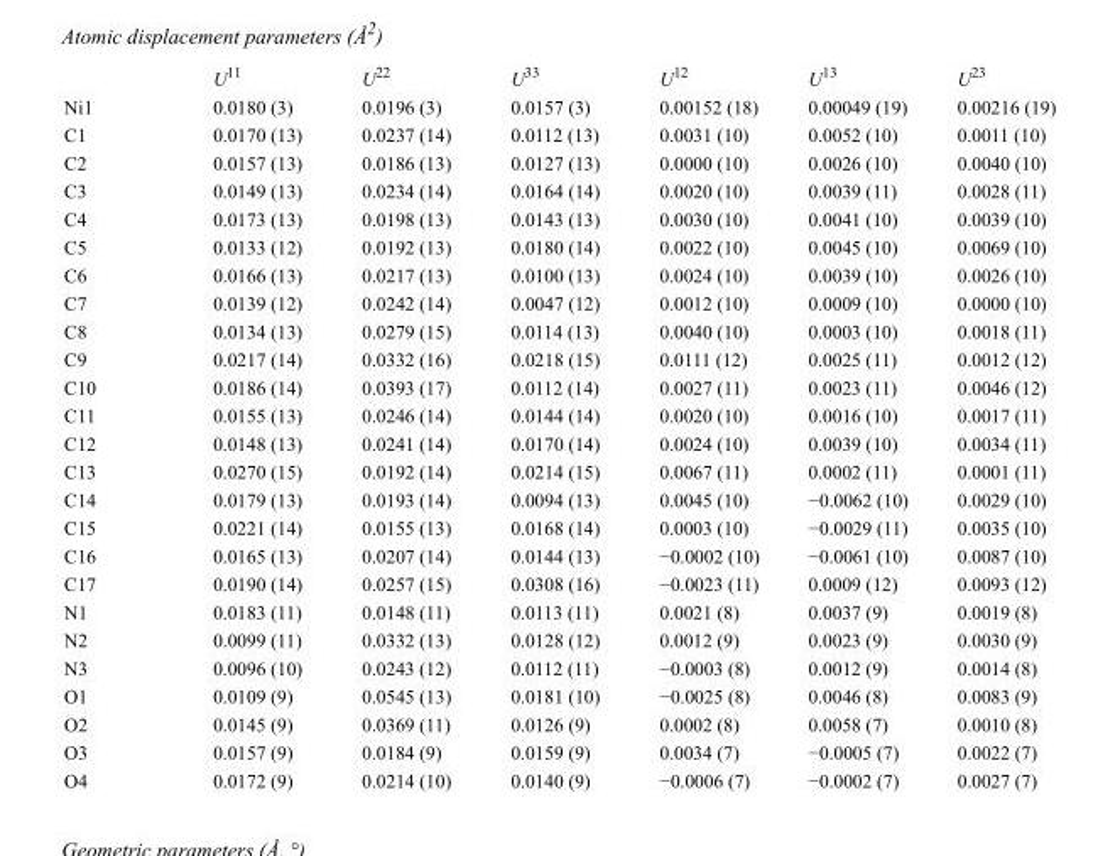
<table><thead><tr><td></td><td>U11</td><td>U22</td><td>U33</td><td>U12</td><td>U13</td><td>U23</td></tr></thead><tbody><tr><td>Ni1</td><td>0.0180 (3)</td><td>0.0196 (3)</td><td>0.0157 (3)</td><td>0.00152 (18)</td><td>0.00049 (19)</td><td>0.00216 (19)</td></tr><tr><td>C1</td><td>0.0170 (13)</td><td>0.0237 (14)</td><td>0.0112 (13)</td><td>0.0031 (10)</td><td>0.0052 (10)</td><td>0.0011 (10)</td></tr><tr><td>C2</td><td>0.0157 (13)</td><td>0.0186 (13)</td><td>0.0127 (13)</td><td>0.0000 (10)</td><td>0.0026 (10)</td><td>0.0040 (10)</td></tr><tr><td>C3</td><td>0.0149 (13)</td><td>0.0234 (14)</td><td>0.0164 (14)</td><td>0.0020 (10)</td><td>0.0039 (11)</td><td>0.0028 (11)</td></tr><tr><td>C4</td><td>0.0173 (13)</td><td>0.0198 (13)</td><td>0.0143 (13)</td><td>0.0030 (10)</td><td>0.0041 (10)</td><td>0.0039 (10)</td></tr><tr><td>C5</td><td>0.0133 (12)</td><td>0.0192 (13)</td><td>0.0180 (14)</td><td>0.0022 (10)</td><td>0.0045 (10)</td><td>0.0069 (10)</td></tr><tr><td>C6</td><td>0.0166 (13)</td><td>0.0217 (13)</td><td>0.0100 (13)</td><td>0.0024 (10)</td><td>0.0039 (10)</td><td>0.0026 (10)</td></tr><tr><td>C7</td><td>0.0139 (12)</td><td>0.0242 (14)</td><td>0.0047 (12)</td><td>0.0012 (10)</td><td>0.0009 (10)</td><td>0.0000 (10)</td></tr><tr><td>C8</td><td>0.0134 (13)</td><td>0.0279 (15)</td><td>0.0114 (13)</td><td>0.0040 (10)</td><td>0.0003 (10)</td><td>0.0018 (11)</td></tr><tr><td>C9</td><td>0.0217 (14)</td><td>0.0332 (16)</td><td>0.0218 (15)</td><td>0.0111 (12)</td><td>0.0025 (11)</td><td>0.0012 (12)</td></tr><tr><td>C10</td><td>0.0186 (14)</td><td>0.0393 (17)</td><td>0.0112 (14)</td><td>0.0027 (11)</td><td>0.0023 (11)</td><td>0.0046 (12)</td></tr><tr><td>C11</td><td>0.0155 (13)</td><td>0.0246 (14)</td><td>0.0144 (14)</td><td>0.0020 (10)</td><td>0.0016 (10)</td><td>0.0017 (11)</td></tr><tr><td>C12</td><td>0.0148 (13)</td><td>0.0241 (14)</td><td>0.0170 (14)</td><td>0.0024 (10)</td><td>0.0039 (10)</td><td>0.0034 (11)</td></tr><tr><td>C13</td><td>0.0270 (15)</td><td>0.0192 (14)</td><td>0.0214 (15)</td><td>0.0067 (11)</td><td>0.0002 (11)</td><td>0.0001 (11)</td></tr><tr><td>C14</td><td>0.0179 (13)</td><td>0.0193 (14)</td><td>0.0094 (13)</td><td>0.0045 (10)</td><td>−0.0062 (10)</td><td>0.0029 (10)</td></tr><tr><td>C15</td><td>0.0221 (14)</td><td>0.0155 (13)</td><td>0.0168 (14)</td><td>0.0003 (10)</td><td>−0.0029 (11)</td><td>0.0035 (10)</td></tr><tr><td>C16</td><td>0.0165 (13)</td><td>0.0207 (14)</td><td>0.0144 (13)</td><td>−0.0002 (10)</td><td>−0.0061 (10)</td><td>0.0087 (10)</td></tr><tr><td>C17</td><td>0.0190 (14)</td><td>0.0257 (15)</td><td>0.0308 (16)</td><td>−0.0023 (11)</td><td>0.0009 (12)</td><td>0.0093 (12)</td></tr><tr><td>N1</td><td>0.0183 (11)</td><td>0.0148 (11)</td><td>0.0113 (11)</td><td>0.0021 (8)</td><td>0.0037 (9)</td><td>0.0019 (8)</td></tr><tr><td>N2</td><td>0.0099 (11)</td><td>0.0332 (13)</td><td>0.0128 (12)</td><td>0.0012 (9)</td><td>0.0023 (9)</td><td>0.0030 (9)</td></tr><tr><td>N3</td><td>0.0096 (10)</td><td>0.0243 (12)</td><td>0.0112 (11)</td><td>−0.0003 (8)</td><td>0.0012 (9)</td><td>0.0014 (8)</td></tr><tr><td>O1</td><td>0.0109 (9)</td><td>0.0545 (13)</td><td>0.0181 (10)</td><td>−0.0025 (8)</td><td>0.0046 (8)</td><td>0.0083 (9)</td></tr><tr><td>O2</td><td>0.0145 (9)</td><td>0.0369 (11)</td><td>0.0126 (9)</td><td>0.0002 (8)</td><td>0.0058 (7)</td><td>0.0010 (8)</td></tr><tr><td>O3</td><td>0.0157 (9)</td><td>0.0184 (9)</td><td>0.0159 (9)</td><td>0.0034 (7)</td><td>−0.0005 (7)</td><td>0.0022 (7)</td></tr><tr><td>O4</td><td>0.0172 (9)</td><td>0.0214 (10)</td><td>0.0140 (9)</td><td>−0.0006 (7)</td><td>−0.0002 (7)</td><td>0.0027 (7)</td></tr></tbody></table>